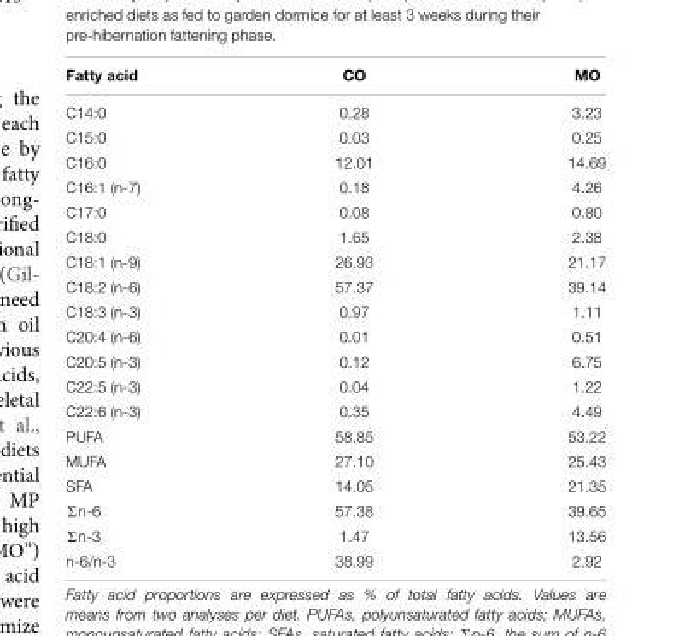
<table><thead><tr><td>Fatty acid</td><td>CO</td><td>MO</td></tr></thead><tbody><tr><td>C14:0</td><td>0.28</td><td>3.23</td></tr><tr><td>C15:0</td><td>0.03</td><td>0.25</td></tr><tr><td>C16:0</td><td>12.01</td><td>14.69</td></tr><tr><td>C16:1 (n-7)</td><td>0.18</td><td>4.26</td></tr><tr><td>C17:0</td><td>0.08</td><td>0.80</td></tr><tr><td>C18:0</td><td>1.65</td><td>2.38</td></tr><tr><td>C18:1 (n-9)</td><td>26.93</td><td>21.17</td></tr><tr><td>C18:2 (n-6)</td><td>57.37</td><td>39.14</td></tr><tr><td>C18:3 (n-3)</td><td>0.97</td><td>1.11</td></tr><tr><td>C20:4 (n-6)</td><td>0.01</td><td>0.51</td></tr><tr><td>C20:5 (n-3)</td><td>0.12</td><td>6.75</td></tr><tr><td>C22:5 (n-3)</td><td>0.04</td><td>1.22</td></tr><tr><td>C22:6 (n-3)</td><td>0.35</td><td>4.49</td></tr><tr><td>PUFA</td><td>58.85</td><td>53.22</td></tr><tr><td>MUFA</td><td>27.10</td><td>25.43</td></tr><tr><td>SFA</td><td>14.05</td><td>21.35</td></tr><tr><td>Σn-6</td><td>57.38</td><td>39.65</td></tr><tr><td>Σn-3</td><td>1.47</td><td>13.56</td></tr><tr><td>n-6/n-3</td><td>38.99</td><td>2.92</td></tr></tbody></table>